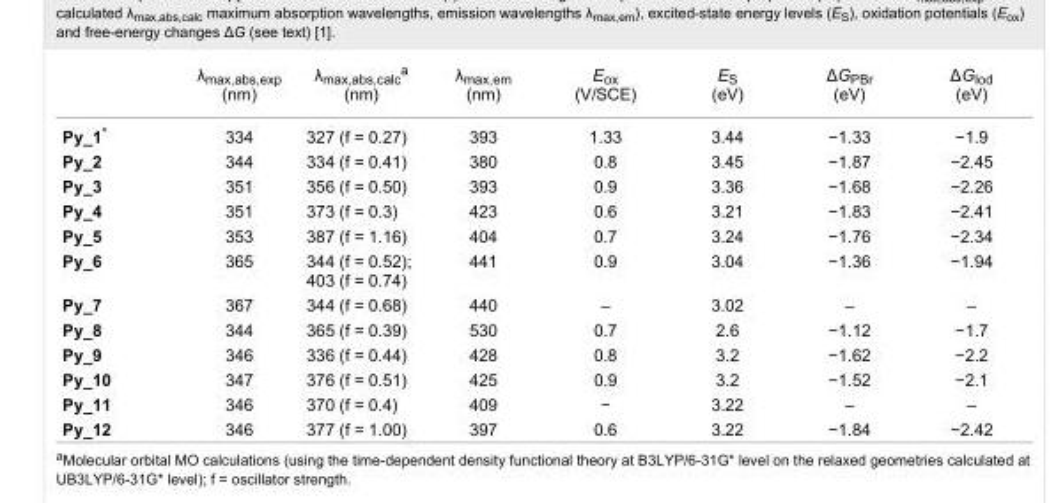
<table><thead><tr><td></td><td>λ<sub>max,abs,exp</sub> (nm)</td><td>λ<sub>max,abs,calc</sub><sup>a</sup> (nm)</td><td>λ<sub>max,em</sub> (nm)</td><td>E<sub>ox</sub> (V/SCE)</td><td>E<sub>S</sub> (eV)</td><td>ΔG<sub>PBr</sub> (eV)</td><td>ΔG<sub>Iod</sub> (eV)</td></tr></thead><tbody><tr><td>Py_1*</td><td>334</td><td>327 (f = 0.27)</td><td>393</td><td>1.33</td><td>3.44</td><td>−1.33</td><td>−1.9</td></tr><tr><td>Py_2</td><td>344</td><td>334 (f = 0.41)</td><td>380</td><td>0.8</td><td>3.45</td><td>−1.87</td><td>−2.45</td></tr><tr><td>Py_3</td><td>351</td><td>356 (f = 0.50)</td><td>393</td><td>0.9</td><td>3.36</td><td>−1.68</td><td>−2.26</td></tr><tr><td>Py_4</td><td>351</td><td>373 (f = 0.3)</td><td>423</td><td>0.6</td><td>3.21</td><td>−1.83</td><td>−2.41</td></tr><tr><td>Py_5</td><td>353</td><td>387 (f = 1.16)</td><td>404</td><td>0.7</td><td>3.24</td><td>−1.76</td><td>−2.34</td></tr><tr><td>Py_6</td><td>365</td><td>344 (f = 0.52); 403 (f = 0.74)</td><td>441</td><td>0.9</td><td>3.04</td><td>−1.36</td><td>−1.94</td></tr><tr><td>Py_7</td><td>367</td><td>344 (f = 0.68)</td><td>440</td><td>–</td><td>3.02</td><td>–</td><td>–</td></tr><tr><td>Py_8</td><td>344</td><td>365 (f = 0.39)</td><td>530</td><td>0.7</td><td>2.6</td><td>−1.12</td><td>−1.7</td></tr><tr><td>Py_9</td><td>346</td><td>336 (f = 0.44)</td><td>428</td><td>0.8</td><td>3.2</td><td>−1.62</td><td>−2.2</td></tr><tr><td>Py_10</td><td>347</td><td>376 (f = 0.51)</td><td>425</td><td>0.9</td><td>3.2</td><td>−1.52</td><td>−2.1</td></tr><tr><td>Py_11</td><td>346</td><td>370 (f = 0.4)</td><td>409</td><td>−</td><td>3.22</td><td>–</td><td>–</td></tr><tr><td>Py_12</td><td>346</td><td>377 (f = 1.00)</td><td>397</td><td>0.6</td><td>3.22</td><td>−1.84</td><td>−2.42</td></tr></tbody></table>